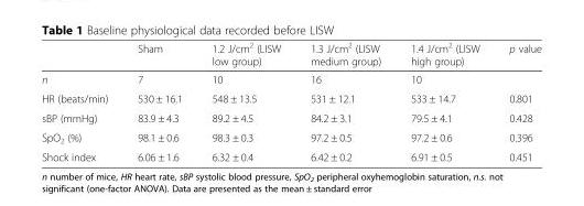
<table><thead><tr><td></td><td>Sham</td><td>1.2 J/cm<sup>2</sup> (LISW low group)</td><td>1.3 J/cm<sup>2</sup> (LISW medium group)</td><td>1.4 J/cm<sup>2</sup> (LISW high group)</td><td>p value</td></tr></thead><tbody><tr><td>n</td><td>7</td><td>10</td><td>16</td><td>10</td><td></td></tr><tr><td>HR (beats/min)</td><td>530 ± 16.1</td><td>548 ± 13.5</td><td>531 ± 12.1</td><td>533 ± 14.7</td><td>0.801</td></tr><tr><td>sBP (mmHg)</td><td>83.9 ± 4.3</td><td>89.2 ± 4.5</td><td>84.2 ± 3.1</td><td>79.5 ± 4.1</td><td>0.428</td></tr><tr><td>SpO<sub>2</sub> (%)</td><td>98.1 ± 0.6</td><td>98.3 ± 0.3</td><td>97.2 ± 0.5</td><td>97.2 ± 0.6</td><td>0.396</td></tr><tr><td>Shock index</td><td>6.06 ± 1.6</td><td>6.32 ± 0.4</td><td>6.42 ± 0.2</td><td>6.91 ± 0.5</td><td>0.451</td></tr></tbody></table>